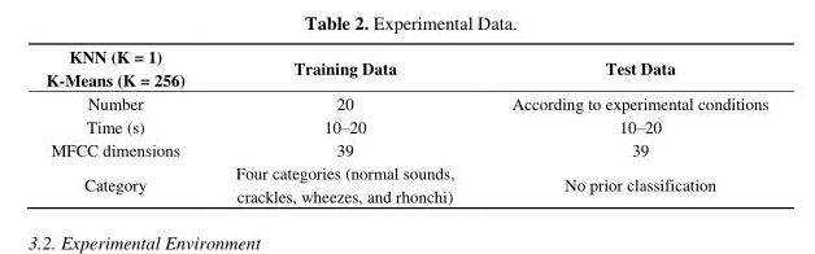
<table><thead><tr><td>KNN (K = 1) K-Means (K = 256)</td><td>Training Data</td><td>Test Data</td></tr></thead><tbody><tr><td>Number</td><td>20</td><td>According to experimental conditions</td></tr><tr><td>Time (s)</td><td>10–20</td><td>10–20</td></tr><tr><td>MFCC dimensions</td><td>39</td><td>39</td></tr><tr><td>Category</td><td>Four categories (normal sounds, crackles, wheezes, and rhonchi)</td><td>No prior classification</td></tr></tbody></table>